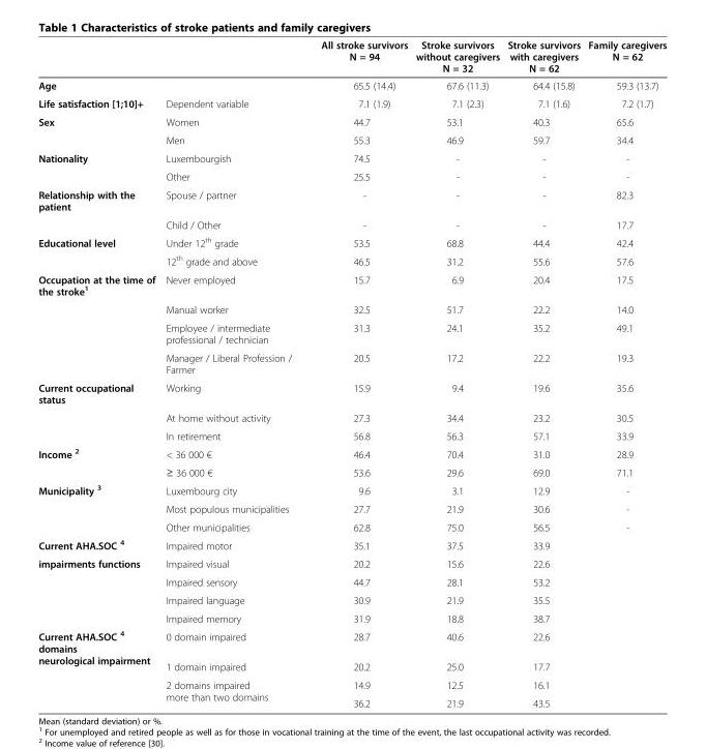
<table><thead><tr><td></td><td></td><td>All stroke survivors N = 94</td><td>Stroke survivors without caregivers N = 32</td><td>Stroke survivors with caregivers N = 62</td><td>Family caregivers N = 62</td></tr></thead><tbody><tr><td>Age</td><td></td><td>65.5 (14.4)</td><td>67.6 (11.3)</td><td>64.4 (15.8)</td><td>59.3 (13.7)</td></tr><tr><td>Life satisfaction [1;10]+</td><td>Dependent variable</td><td>7.1 (1.9)</td><td>7.1 (2.3)</td><td>7.1 (1.6)</td><td>7.2 (1.7)</td></tr><tr><td rowspan="2">Sex</td><td>Women</td><td>44.7</td><td>53.1</td><td>40.3</td><td>65.6</td></tr><tr><td>Men</td><td>55.3</td><td>46.9</td><td>59.7</td><td>34.4</td></tr><tr><td rowspan="2">Nationality</td><td>Luxembourgish</td><td>74.5</td><td>-</td><td>-</td><td>-</td></tr><tr><td>Other</td><td>25.5</td><td>-</td><td>-</td><td>-</td></tr><tr><td rowspan="2">Relationship with the patient</td><td>Spouse / partner</td><td>-</td><td>-</td><td>-</td><td>82.3</td></tr><tr><td>Child / Other</td><td>-</td><td>-</td><td>-</td><td>17.7</td></tr><tr><td rowspan="2">Educational level</td><td>Under 12<sup>th</sup> grade</td><td>53.5</td><td>68.8</td><td>44.4</td><td>42.4</td></tr><tr><td>12<sup>th</sup> grade and above</td><td>46.5</td><td>31.2</td><td>55.6</td><td>57.6</td></tr><tr><td rowspan="4">Occupation at the time of the stroke<sup>1</sup></td><td>Never employed</td><td>15.7</td><td>6.9</td><td>20.4</td><td>17.5</td></tr><tr><td>Manual worker</td><td>32.5</td><td>51.7</td><td>22.2</td><td>14.0</td></tr><tr><td>Employee / intermediate professional / technician</td><td>31.3</td><td>24.1</td><td>35.2</td><td>49.1</td></tr><tr><td>Manager / Liberal Profession / Farmer</td><td>20.5</td><td>17.2</td><td>22.2</td><td>19.3</td></tr><tr><td rowspan="3">Current occupational status</td><td>Working</td><td>15.9</td><td>9.4</td><td>19.6</td><td>35.6</td></tr><tr><td>At home without activity</td><td>27.3</td><td>34.4</td><td>23.2</td><td>30.5</td></tr><tr><td>In retirement</td><td>56.8</td><td>56.3</td><td>57.1</td><td>33.9</td></tr><tr><td rowspan="2">Income <sup>2</sup></td><td>&lt; 36 000 €</td><td>46.4</td><td>70.4</td><td>31.0</td><td>28.9</td></tr><tr><td>≥ 36 000 €</td><td>53.6</td><td>29.6</td><td>69.0</td><td>71.1</td></tr><tr><td rowspan="3">Municipality <sup>3</sup></td><td>Luxembourg city</td><td>9.6</td><td>3.1</td><td>12.9</td><td>-</td></tr><tr><td>Most populous municipalities</td><td>27.7</td><td>21.9</td><td>30.6</td><td>-</td></tr><tr><td>Other municipalities</td><td>62.8</td><td>75.0</td><td>56.5</td><td>-</td></tr><tr><td>Current AHA.SOC <sup>4</sup></td><td>Impaired motor</td><td>35.1</td><td>37.5</td><td>33.9</td><td></td></tr><tr><td rowspan="4">impairments functions</td><td>Impaired visual</td><td>20.2</td><td>15.6</td><td>22.6</td><td></td></tr><tr><td>Impaired sensory</td><td>44.7</td><td>28.1</td><td>53.2</td><td></td></tr><tr><td>Impaired language</td><td>30.9</td><td>21.9</td><td>35.5</td><td></td></tr><tr><td>Impaired memory</td><td>31.9</td><td>18.8</td><td>38.7</td><td></td></tr><tr><td>Current AHA.SOC <sup>4</sup> domains</td><td>0 domain impaired</td><td>28.7</td><td>40.6</td><td>22.6</td><td></td></tr><tr><td rowspan="3">neurological impairment</td><td>1 domain impaired</td><td>20.2</td><td>25.0</td><td>17.7</td><td></td></tr><tr><td>2 domains impaired</td><td>14.9</td><td>12.5</td><td>16.1</td><td></td></tr><tr><td>more than two domains</td><td>36.2</td><td>21.9</td><td>43.5</td><td></td></tr></tbody></table>